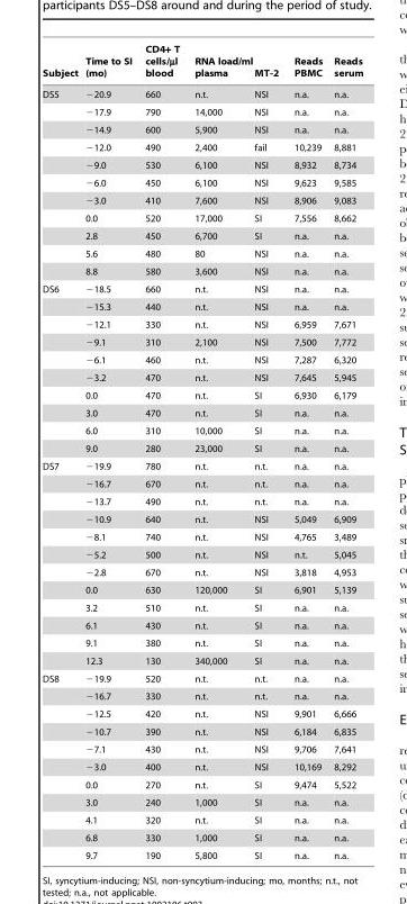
<table><thead><tr><td>Subject</td><td>Time to SI (mo)</td><td>CD4+ T cells/µl blood</td><td>RNA load/ml plasma</td><td>MT-2</td><td>Reads PBMC</td><td>Reads serum</td></tr></thead><tbody><tr><td rowspan="11">DS5</td><td>−20.9</td><td>660</td><td>n.t.</td><td>NSI</td><td>n.a.</td><td>n.a.</td></tr><tr><td>−17.9</td><td>790</td><td>14,000</td><td>NSI</td><td>n.a.</td><td>n.a.</td></tr><tr><td>−14.9</td><td>600</td><td>5,900</td><td>NSI</td><td>n.a.</td><td>n.a.</td></tr><tr><td>−12.0</td><td>490</td><td>2,400</td><td>fail</td><td>10,239</td><td>8,881</td></tr><tr><td>−9.0</td><td>530</td><td>6,100</td><td>NSI</td><td>8,932</td><td>8,734</td></tr><tr><td>−6.0</td><td>450</td><td>6,100</td><td>NSI</td><td>9,623</td><td>9,585</td></tr><tr><td>−3.0</td><td>410</td><td>7,600</td><td>NSI</td><td>8,906</td><td>9,083</td></tr><tr><td>0.0</td><td>520</td><td>17,000</td><td>SI</td><td>7,556</td><td>8,662</td></tr><tr><td>2.8</td><td>450</td><td>6,700</td><td>SI</td><td>n.a.</td><td>n.a.</td></tr><tr><td>5.6</td><td>480</td><td>80</td><td>NSI</td><td>n.a.</td><td>n.a.</td></tr><tr><td>8.8</td><td>580</td><td>3,600</td><td>NSI</td><td>n.a.</td><td>n.a.</td></tr><tr><td rowspan="10">DS6</td><td>−18.5</td><td>660</td><td>n.t.</td><td>NSI</td><td>n.a.</td><td>n.a.</td></tr><tr><td>−15.3</td><td>440</td><td>n.t.</td><td>NSI</td><td>n.a.</td><td>n.a.</td></tr><tr><td>−12.1</td><td>330</td><td>n.t.</td><td>NSI</td><td>6,959</td><td>7,671</td></tr><tr><td>−9.1</td><td>310</td><td>2,100</td><td>NSI</td><td>7,500</td><td>7,772</td></tr><tr><td>−6.1</td><td>460</td><td>n.t.</td><td>NSI</td><td>7,287</td><td>6,320</td></tr><tr><td>−3.2</td><td>470</td><td>n.t.</td><td>NSI</td><td>7,645</td><td>5,945</td></tr><tr><td>0.0</td><td>470</td><td>n.t.</td><td>SI</td><td>6,930</td><td>6,179</td></tr><tr><td>3.0</td><td>470</td><td>n.t.</td><td>SI</td><td>n.a.</td><td>n.a.</td></tr><tr><td>6.0</td><td>310</td><td>10,000</td><td>SI</td><td>n.a.</td><td>n.a.</td></tr><tr><td>9.0</td><td>280</td><td>23,000</td><td>SI</td><td>n.a.</td><td>n.a.</td></tr><tr><td rowspan="12">DS7</td><td>−19.9</td><td>780</td><td>n.t.</td><td>n.t.</td><td>n.a.</td><td>n.a.</td></tr><tr><td>−16.7</td><td>670</td><td>n.t.</td><td>n.t.</td><td>n.a.</td><td>n.a.</td></tr><tr><td>−13.7</td><td>490</td><td>n.t.</td><td>n.t.</td><td>n.a.</td><td>n.a.</td></tr><tr><td>−10.9</td><td>640</td><td>n.t.</td><td>NSI</td><td>5,049</td><td>6,909</td></tr><tr><td>−8.1</td><td>740</td><td>n.t.</td><td>NSI</td><td>4,765</td><td>3,489</td></tr><tr><td>−5.2</td><td>500</td><td>n.t.</td><td>NSI</td><td>n.t.</td><td>5,045</td></tr><tr><td>−2.8</td><td>670</td><td>n.t.</td><td>NSI</td><td>3,818</td><td>4,953</td></tr><tr><td>0.0</td><td>630</td><td>120,000</td><td>SI</td><td>6,901</td><td>5,139</td></tr><tr><td>3.2</td><td>510</td><td>n.t.</td><td>SI</td><td>n.a.</td><td>n.a.</td></tr><tr><td>6.1</td><td>430</td><td>n.t.</td><td>SI</td><td>n.a.</td><td>n.a.</td></tr><tr><td>9.1</td><td>380</td><td>n.t.</td><td>SI</td><td>n.a.</td><td>n.a.</td></tr><tr><td>12.3</td><td>130</td><td>340,000</td><td>SI</td><td>n.a.</td><td>n.a.</td></tr><tr><td rowspan="11">DS8</td><td>−19.9</td><td>520</td><td>n.t.</td><td>n.t.</td><td>n.a.</td><td>n.a.</td></tr><tr><td>−16.7</td><td>330</td><td>n.t.</td><td>n.t.</td><td>n.a.</td><td>n.a.</td></tr><tr><td>−12.5</td><td>420</td><td>n.t.</td><td>NSI</td><td>9,901</td><td>6,666</td></tr><tr><td>−10.7</td><td>390</td><td>n.t.</td><td>NSI</td><td>6,184</td><td>6,835</td></tr><tr><td>−7.1</td><td>430</td><td>n.t.</td><td>NSI</td><td>9,706</td><td>7,641</td></tr><tr><td>−3.0</td><td>400</td><td>n.t.</td><td>NSI</td><td>10,169</td><td>8,292</td></tr><tr><td>0.0</td><td>270</td><td>n.t.</td><td>SI</td><td>9,474</td><td>5,522</td></tr><tr><td>3.0</td><td>240</td><td>1,000</td><td>SI</td><td>n.a.</td><td>n.a.</td></tr><tr><td>4.1</td><td>320</td><td>n.t.</td><td>SI</td><td>n.a.</td><td>n.a.</td></tr><tr><td>6.8</td><td>330</td><td>1,000</td><td>SI</td><td>n.a.</td><td>n.a.</td></tr><tr><td>9.7</td><td>190</td><td>5,800</td><td>SI</td><td>n.a.</td><td>n.a.</td></tr></tbody></table>